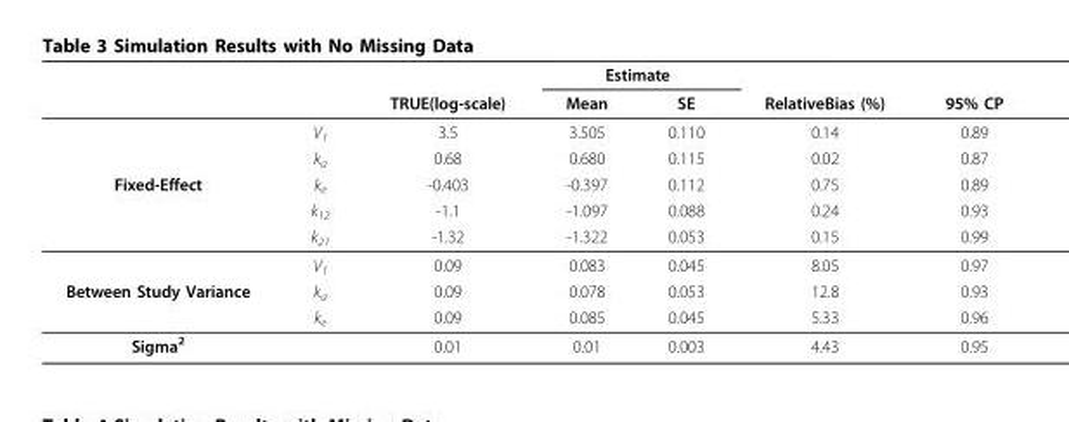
<table><thead><tr><td rowspan="2"></td><td rowspan="2"></td><td colspan="4">Estimate</td><td rowspan="2">95% CP</td></tr><tr><td>TRUE(log-scale)</td><td>Mean</td><td>SE</td><td>RelativeBias (%)</td></tr></thead><tbody><tr><td></td><td>V<sub>1</sub></td><td>3.5</td><td>3.505</td><td>0.110</td><td>0.14</td><td>0.89</td></tr><tr><td></td><td>k<sub>a</sub></td><td>0.68</td><td>0.680</td><td>0.115</td><td>0.02</td><td>0.87</td></tr><tr><td rowspan="4">Fixed-Effect</td><td>k<sub>e</sub></td><td>-0.403</td><td>-0.397</td><td>0.112</td><td>0.75</td><td>0.89</td></tr><tr><td>k<sub>12</sub></td><td>-1.1</td><td>-1.097</td><td>0.088</td><td>0.24</td><td>0.93</td></tr><tr><td>k<sub>21</sub></td><td>-1.32</td><td>-1.322</td><td>0.053</td><td>0.15</td><td>0.99</td></tr><tr><td>V<sub>1</sub></td><td>0.09</td><td>0.083</td><td>0.045</td><td>8.05</td><td>0.97</td></tr><tr><td rowspan="2">Between Study Variance</td><td>k<sub>a</sub></td><td>0.09</td><td>0.078</td><td>0.053</td><td>12.8</td><td>0.93</td></tr><tr><td>k<sub>e</sub></td><td>0.09</td><td>0.085</td><td>0.045</td><td>5.33</td><td>0.96</td></tr><tr><td>Sigma<sup>2</sup></td><td></td><td>0.01</td><td>0.01</td><td>0.003</td><td>4.43</td><td>0.95</td></tr></tbody></table>